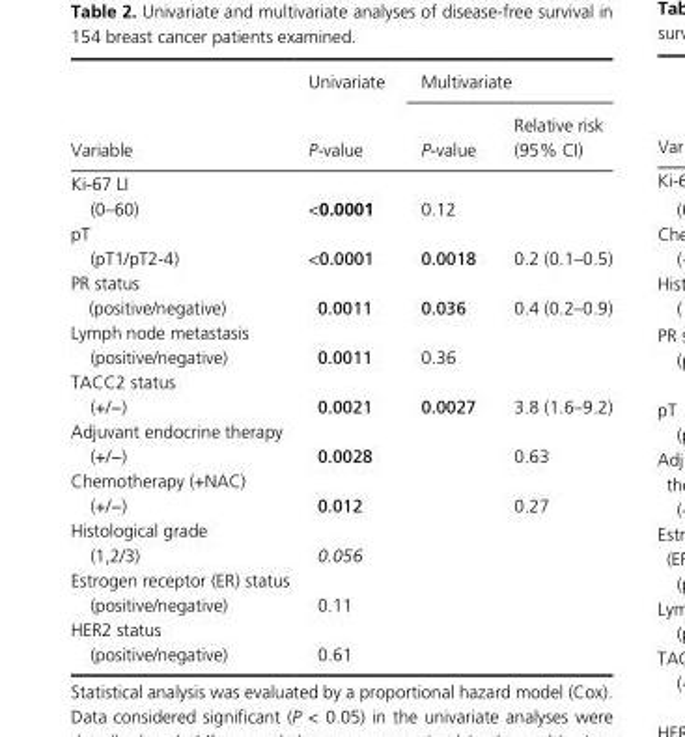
<table><thead><tr><td rowspan="2">Variable</td><td rowspan="2">Univariate P-value</td><td colspan="2">Multivariate</td></tr><tr><td>P-value</td><td>Relative risk (95% CI)</td></tr></thead><tbody><tr><td colspan="4">Ki- 67 LI</td></tr><tr><td>(0–60)</td><td>&lt;0.0001</td><td>0.12</td><td></td></tr><tr><td colspan="4">pT</td></tr><tr><td>(pT1/pT2- 4)</td><td>&lt;0.0001</td><td>0.0018</td><td>0.2 (0.1–0.5)</td></tr><tr><td colspan="4">PR status</td></tr><tr><td>(positive/negative)</td><td>0.0011</td><td>0.036</td><td>0.4 (0.2–0.9)</td></tr><tr><td colspan="4">Lymph node metastasis</td></tr><tr><td>(positive/negative)</td><td>0.0011</td><td>0.36</td><td></td></tr><tr><td colspan="4">TACC2 status</td></tr><tr><td>(+/−)</td><td>0.0021</td><td>0.0027</td><td>3.8 (1.6–9.2)</td></tr><tr><td colspan="4">Adjuvant endocrine therapy</td></tr><tr><td>(+/−)</td><td>0.0028</td><td></td><td>0.63</td></tr><tr><td colspan="4">Chemotherapy (+NAC)</td></tr><tr><td>(+/−)</td><td>0.012</td><td></td><td>0.27</td></tr><tr><td colspan="4">Histological grade</td></tr><tr><td>(1,2/3)</td><td>0.056</td><td></td><td></td></tr><tr><td colspan="4">Estrogen receptor (ER) status</td></tr><tr><td>(positive/negative)</td><td>0.11</td><td></td><td></td></tr><tr><td colspan="4">HER2 status</td></tr><tr><td>(positive/negative)</td><td>0.61</td><td></td><td></td></tr></tbody></table>